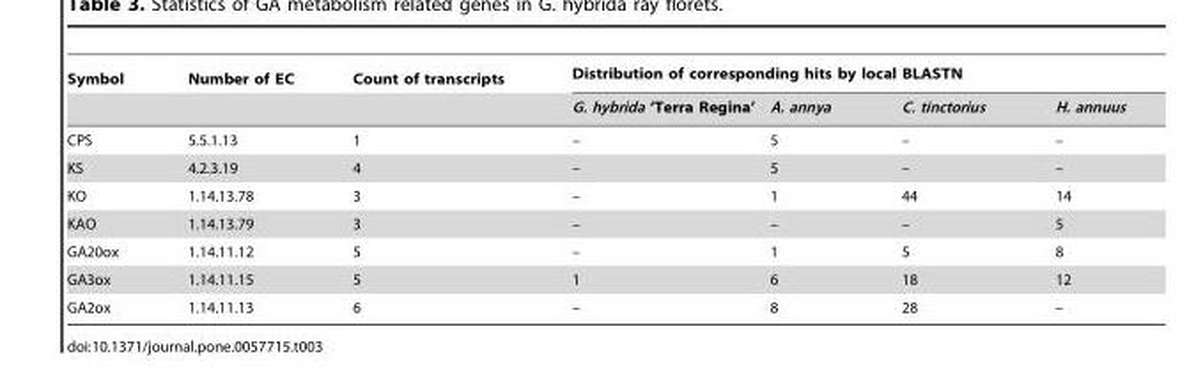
<table><thead><tr><td rowspan="2">Symbol</td><td rowspan="2">Number of EC</td><td rowspan="2">Count of transcripts</td><td colspan="4">Distribution of corresponding hits by local BLASTN</td></tr><tr><td>G. hybrida ‘Terra Regina’</td><td>A. annya</td><td>C. tinctorius</td><td>H. annuus</td></tr></thead><tbody><tr><td>CPS</td><td>5.5.1.13</td><td>1</td><td>–</td><td>5</td><td>–</td><td>–</td></tr><tr><td>KS</td><td>4.2.3.19</td><td>4</td><td>–</td><td>5</td><td>–</td><td>–</td></tr><tr><td>KO</td><td>1.14.13.78</td><td>3</td><td>–</td><td>1</td><td>44</td><td>14</td></tr><tr><td>KAO</td><td>1.14.13.79</td><td>3</td><td>–</td><td>–</td><td>–</td><td>5</td></tr><tr><td>GA20ox</td><td>1.14.11.12</td><td>5</td><td>–</td><td>1</td><td>5</td><td>8</td></tr><tr><td>GA3ox</td><td>1.14.11.15</td><td>5</td><td>1</td><td>6</td><td>18</td><td>12</td></tr><tr><td>GA2ox</td><td>1.14.11.13</td><td>6</td><td>–</td><td>8</td><td>28</td><td>–</td></tr></tbody></table>